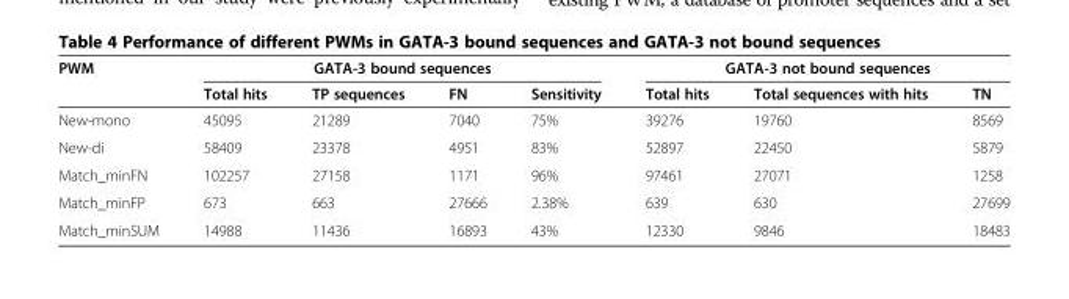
<table><thead><tr><td rowspan="2">PWM</td><td colspan="4">GATA-3 bound sequences</td><td colspan="3">GATA-3 not bound sequences</td></tr><tr><td>Total hits</td><td>TP sequences</td><td>FN</td><td>Sensitivity</td><td>Total hits</td><td>Total sequences with hits</td><td>TN</td></tr></thead><tbody><tr><td>New-mono</td><td>45095</td><td>21289</td><td>7040</td><td>75%</td><td>39276</td><td>19760</td><td>8569</td></tr><tr><td>New-di</td><td>58409</td><td>23378</td><td>4951</td><td>83%</td><td>52897</td><td>22450</td><td>5879</td></tr><tr><td>Match_minFN</td><td>102257</td><td>27158</td><td>1171</td><td>96%</td><td>97461</td><td>27071</td><td>1258</td></tr><tr><td>Match_minFP</td><td>673</td><td>663</td><td>27666</td><td>2.38%</td><td>639</td><td>630</td><td>27699</td></tr><tr><td>Match_minSUM</td><td>14988</td><td>11436</td><td>16893</td><td>43%</td><td>12330</td><td>9846</td><td>18483</td></tr></tbody></table>